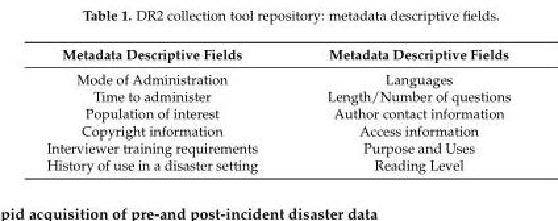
<table><thead><tr><td>Metadata Descriptive Fields</td><td>Metadata Descriptive Fields</td></tr></thead><tbody><tr><td>Mode of Administration</td><td>Languages</td></tr><tr><td>Time to administer</td><td>Length/Number of questions</td></tr><tr><td>Population of interest</td><td>Author contact information</td></tr><tr><td>Copyright information</td><td>Access information</td></tr><tr><td>Interviewer training requirements</td><td>Purpose and Uses</td></tr><tr><td>History of use in a disaster setting</td><td>Reading Level</td></tr></tbody></table>